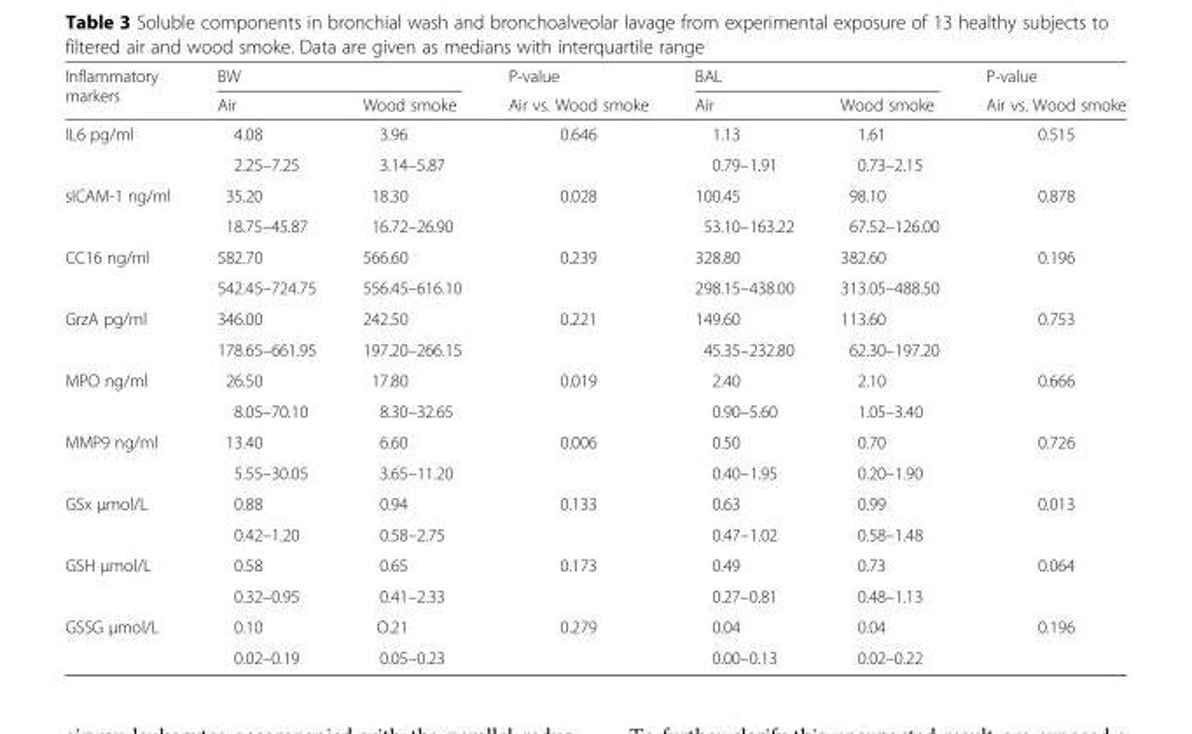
<table><thead><tr><td rowspan="2">Inflammatory markers</td><td colspan="2">BW</td><td rowspan="2">P-value Air vs. Wood smoke</td><td colspan="2">BAL</td><td rowspan="2">P-value Air vs. Wood smoke</td></tr><tr><td>Air</td><td>Wood smoke</td><td>Air</td><td>Wood smoke</td></tr></thead><tbody><tr><td rowspan="2">IL6 pg/ml</td><td>4.08</td><td>3.96</td><td rowspan="2">0.646</td><td>1.13</td><td>1.61</td><td rowspan="2">0.515</td></tr><tr><td>2.25–7.25</td><td>3.14–5.87</td><td>0.79–1.91</td><td>0.73–2.15</td></tr><tr><td rowspan="2">sICAM-1 ng/ml</td><td>35.20</td><td>18.30</td><td rowspan="2">0.028</td><td>100.45</td><td>98.10</td><td rowspan="2">0.878</td></tr><tr><td>18.75–45.87</td><td>16.72–26.90</td><td>53.10–163.22</td><td>67.52–126.00</td></tr><tr><td rowspan="2">CC16 ng/ml</td><td>582.70</td><td>566.60</td><td rowspan="2">0.239</td><td>328.80</td><td>382.60</td><td rowspan="2">0.196</td></tr><tr><td>542.45–724.75</td><td>556.45–616.10</td><td>298.15–438.00</td><td>313.05–488.50</td></tr><tr><td rowspan="2">GrzA pg/ml</td><td>346.00</td><td>242.50</td><td rowspan="2">0.221</td><td>149.60</td><td>113.60</td><td rowspan="2">0.753</td></tr><tr><td>178.65–661.95</td><td>197.20–266.15</td><td>45.35–232.80</td><td>62.30–197.20</td></tr><tr><td rowspan="2">MPO ng/ml</td><td>26.50</td><td>17.80</td><td rowspan="2">0.019</td><td>2.40</td><td>2.10</td><td rowspan="2">0.666</td></tr><tr><td>8.05–70.10</td><td>8.30–32.65</td><td>0.90–5.60</td><td>1.05–3.40</td></tr><tr><td rowspan="2">MMP9 ng/ml</td><td>13.40</td><td>6.60</td><td rowspan="2">0.006</td><td>0.50</td><td>0.70</td><td rowspan="2">0.726</td></tr><tr><td>5.55–30.05</td><td>3.65–11.20</td><td>0.40–1.95</td><td>0.20–1.90</td></tr><tr><td rowspan="2">GSx μmol/L</td><td>0.88</td><td>0.94</td><td rowspan="2">0.133</td><td>0.63</td><td>0.99</td><td rowspan="2">0.013</td></tr><tr><td>0.42–1.20</td><td>0.58–2.75</td><td>0.47–1.02</td><td>0.58–1.48</td></tr><tr><td rowspan="2">GSH μmol/L</td><td>0.58</td><td>0.65</td><td rowspan="2">0.173</td><td>0.49</td><td>0.73</td><td rowspan="2">0.064</td></tr><tr><td>0.32–0.95</td><td>0.41–2.33</td><td>0.27–0.81</td><td>0.48–1.13</td></tr><tr><td rowspan="2">GSSG μmol/L</td><td>0.10</td><td>O.21</td><td rowspan="2">0.279</td><td>0.04</td><td>0.04</td><td rowspan="2">0.196</td></tr><tr><td>0.02–0.19</td><td>0.05–0.23</td><td>0.00–0.13</td><td>0.02–0.22</td></tr></tbody></table>